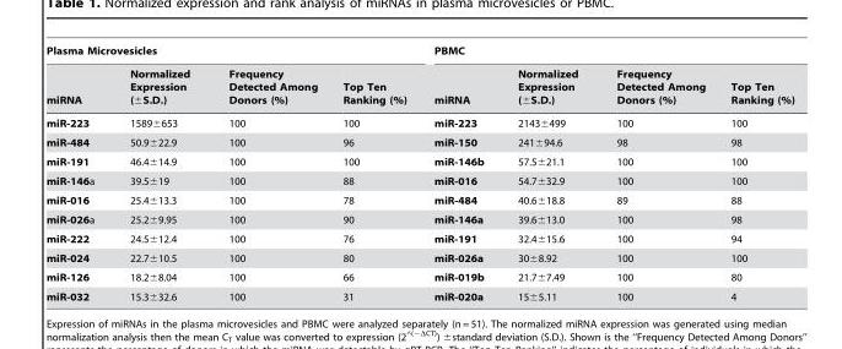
<table><thead><tr><td colspan="4">Plasma Microvesicles</td><td colspan="4">PBMC</td></tr><tr><td>miRNA</td><td>Normalized Expression (±S.D.)</td><td>Frequency Detected Among Donors (%)</td><td>Top Ten Ranking (%)</td><td>miRNA</td><td>Normalized Expression (±S.D.)</td><td>Frequency Detected Among Donors (%)</td><td>Top Ten Ranking (%)</td></tr></thead><tbody><tr><td>miR-223</td><td>1589±653</td><td>100</td><td>100</td><td>miR-223</td><td>2143±499</td><td>100</td><td>100</td></tr><tr><td>miR-484</td><td>50.9±22.9</td><td>100</td><td>96</td><td>miR-150</td><td>241±94.6</td><td>98</td><td>98</td></tr><tr><td>miR-191</td><td>46.4±14.9</td><td>100</td><td>100</td><td>miR-146b</td><td>57.5±21.1</td><td>100</td><td>100</td></tr><tr><td>miR-146a</td><td>39.5±19</td><td>100</td><td>88</td><td>miR-016</td><td>54.7±32.9</td><td>100</td><td>100</td></tr><tr><td>miR-016</td><td>25.4±13.3</td><td>100</td><td>78</td><td>miR-484</td><td>40.6±18.8</td><td>89</td><td>88</td></tr><tr><td>miR-026a</td><td>25.2±9.95</td><td>100</td><td>90</td><td>miR-146a</td><td>39.6±13.0</td><td>100</td><td>98</td></tr><tr><td>miR-222</td><td>24.5±12.4</td><td>100</td><td>76</td><td>miR-191</td><td>32.4±15.6</td><td>100</td><td>94</td></tr><tr><td>miR-024</td><td>22.7±10.5</td><td>100</td><td>80</td><td>miR-026a</td><td>30±8.92</td><td>100</td><td>100</td></tr><tr><td>miR-126</td><td>18.2±8.04</td><td>100</td><td>66</td><td>miR-019b</td><td>21.7±7.49</td><td>100</td><td>80</td></tr><tr><td>miR-032</td><td>15.3±32.6</td><td>100</td><td>31</td><td>miR-020a</td><td>15±5.11</td><td>100</td><td>4</td></tr></tbody></table>